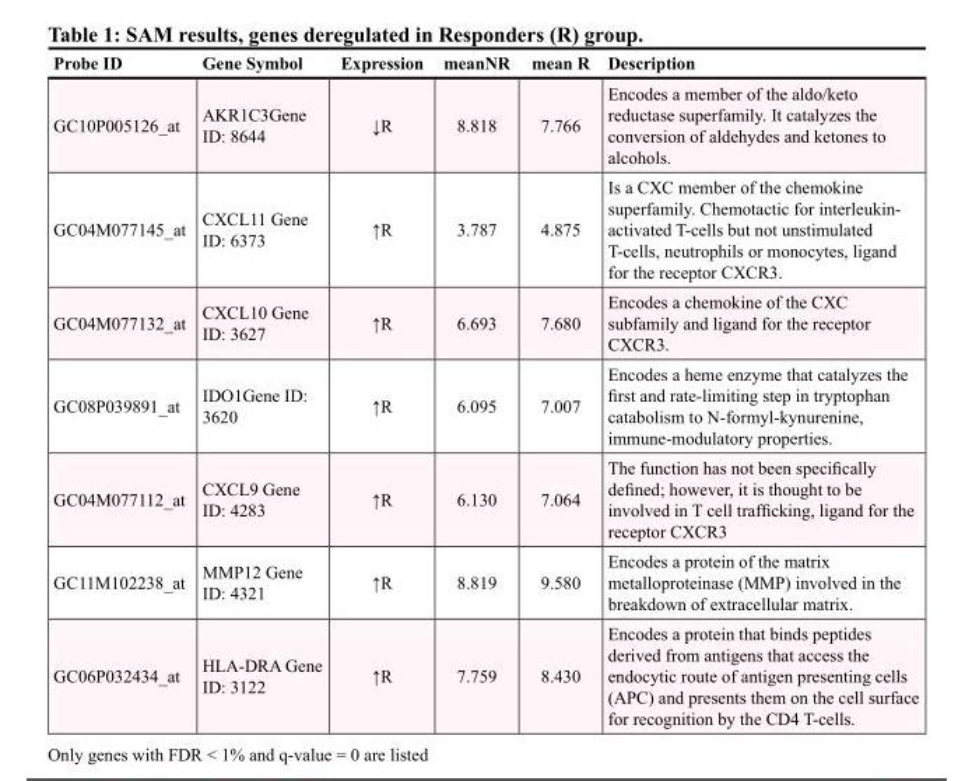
<table><thead><tr><td>Probe ID</td><td>Gene Symbol</td><td>Expression</td><td>meanNR</td><td>mean R</td><td>Description</td></tr></thead><tbody><tr><td>GC10P005126_at</td><td>AKR1C3Gene ID: 8644</td><td>↓R</td><td>8.818</td><td>7.766</td><td>Encodes a member of the aldo/keto reductase superfamily. It catalyzes the conversion of aldehydes and ketones to alcohols.</td></tr><tr><td>GC04M077145_at</td><td>CXCL11 Gene ID: 6373</td><td>↑R</td><td>3.787</td><td>4.875</td><td>Is a CXC member of the chemokine superfamily. Chemotactic for interleukin- activated T-cells but not unstimulated T-cells, neutrophils or monocytes, ligand for the receptor CXCR3.</td></tr><tr><td>GC04M077132_at</td><td>CXCL10 Gene ID: 3627</td><td>↑R</td><td>6.693</td><td>7.680</td><td>Encodes a chemokine of the CXC subfamily and ligand for the receptor CXCR3.</td></tr><tr><td>GC08P039891_at</td><td>IDO1Gene ID: 3620</td><td>↑R</td><td>6.095</td><td>7.007</td><td>Encodes a heme enzyme that catalyzes the first and rate-limiting step in tryptophan catabolism to N-formyl-kynurenine, immune-modulatory properties.</td></tr><tr><td>GC04M077112_at</td><td>CXCL9 Gene ID: 4283</td><td>↑R</td><td>6.130</td><td>7.064</td><td>The function has not been specifically defined; however, it is thought to be involved in T cell trafficking, ligand for the receptor CXCR3</td></tr><tr><td>GC11M102238_at</td><td>MMP12 Gene ID: 4321</td><td>↑R</td><td>8.819</td><td>9.580</td><td>Encodes a protein of the matrix metalloproteinase (MMP) involved in the breakdown of extracellular matrix.</td></tr><tr><td>GC06P032434_at</td><td>HLA-DRA Gene ID: 3122</td><td>↑R</td><td>7.759</td><td>8.430</td><td>Encodes a protein that binds peptides derived from antigens that access the endocytic route of antigen presenting cells (APC) and presents them on the cell surface for recognition by the CD4 T-cells.</td></tr></tbody></table>